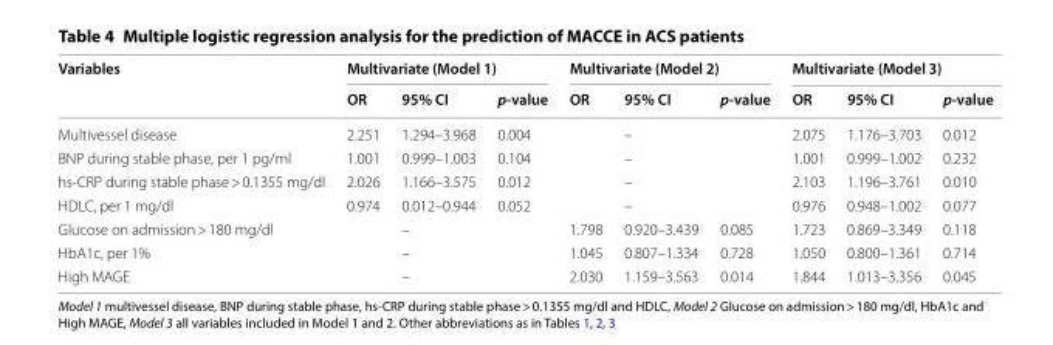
<table><thead><tr><td rowspan="2">Variables</td><td colspan="3">Multivariate (Model 1)</td><td colspan="3">Multivariate (Model 2)</td><td colspan="3">Multivariate (Model 3)</td></tr><tr><td>OR</td><td>95% CI</td><td>p‑value</td><td>OR</td><td>95% CI</td><td>p‑value</td><td>OR</td><td>95% CI</td><td>p‑value</td></tr></thead><tbody><tr><td>Multivessel disease</td><td>2.251</td><td>1.294–3.968</td><td>0.004</td><td></td><td>–</td><td></td><td>2.075</td><td>1.176–3.703</td><td>0.012</td></tr><tr><td>BNP during stable phase, per 1 pg/ml</td><td>1.001</td><td>0.999–1.003</td><td>0.104</td><td></td><td>–</td><td></td><td>1.001</td><td>0.999–1.002</td><td>0.232</td></tr><tr><td>hs-CRP during stable phase &gt; 0.1355 mg/dl</td><td>2.026</td><td>1.166–3.575</td><td>0.012</td><td></td><td>–</td><td></td><td>2.103</td><td>1.196–3.761</td><td>0.010</td></tr><tr><td>HDLC, per 1 mg/dl</td><td>0.974</td><td>0.012–0.944</td><td>0.052</td><td></td><td>–</td><td></td><td>0.976</td><td>0.948–1.002</td><td>0.077</td></tr><tr><td>Glucose on admission &gt; 180 mg/dl</td><td></td><td>–</td><td></td><td>1.798</td><td>0.920–3.439</td><td>0.085</td><td>1.723</td><td>0.869–3.349</td><td>0.118</td></tr><tr><td>HbA1c, per 1%</td><td></td><td>–</td><td></td><td>1.045</td><td>0.807–1.334</td><td>0.728</td><td>1.050</td><td>0.800–1.361</td><td>0.714</td></tr><tr><td>High MAGE</td><td></td><td>–</td><td></td><td>2.030</td><td>1.159–3.563</td><td>0.014</td><td>1.844</td><td>1.013–3.356</td><td>0.045</td></tr></tbody></table>